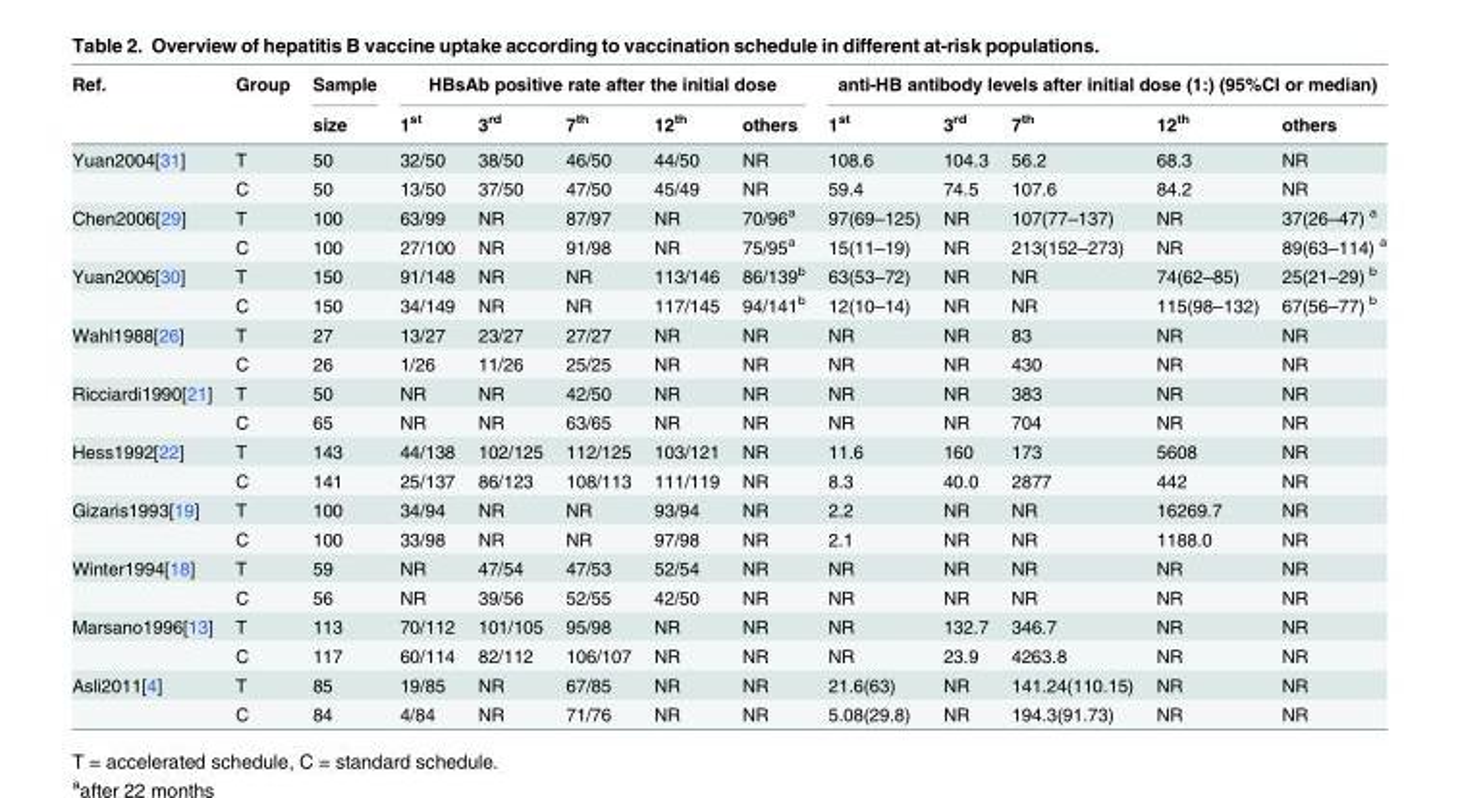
<table><thead><tr><td rowspan="2">Ref.</td><td rowspan="2">Group</td><td rowspan="2">Sample size</td><td colspan="5">HBsAb positive rate after the initial dose</td><td colspan="5">anti-HB antibody levels after initial dose (1:) (95%CI or median)</td></tr><tr><td>1<sup>st</sup></td><td>3<sup>rd</sup></td><td>7<sup>th</sup></td><td>12<sup>th</sup></td><td>others</td><td>1<sup>st</sup></td><td>3<sup>rd</sup></td><td>7<sup>th</sup></td><td>12<sup>th</sup></td><td>others</td></tr></thead><tbody><tr><td rowspan="2">Yuan2004[31]</td><td>T</td><td>50</td><td>32/50</td><td>38/50</td><td>46/50</td><td>44/50</td><td>NR</td><td>108.6</td><td>104.3</td><td>56.2</td><td>68.3</td><td>NR</td></tr><tr><td>C</td><td>50</td><td>13/50</td><td>37/50</td><td>47/50</td><td>45/49</td><td>NR</td><td>59.4</td><td>74.5</td><td>107.6</td><td>84.2</td><td>NR</td></tr><tr><td rowspan="2">Chen2006[29]</td><td>T</td><td>100</td><td>63/99</td><td>NR</td><td>87/97</td><td>NR</td><td>70/96<sup>a</sup></td><td>97(69–125)</td><td>NR</td><td>107(77–137)</td><td>NR</td><td>37(26–47) <sup>a</sup></td></tr><tr><td>C</td><td>100</td><td>27/100</td><td>NR</td><td>91/98</td><td>NR</td><td>75/95<sup>a</sup></td><td>15(11–19)</td><td>NR</td><td>213(152–273)</td><td>NR</td><td>89(63–114) <sup>a</sup></td></tr><tr><td rowspan="2">Yuan2006[30]</td><td>T</td><td>150</td><td>91/148</td><td>NR</td><td>NR</td><td>113/146</td><td>86/139<sup>b</sup></td><td>63(53–72)</td><td>NR</td><td>NR</td><td>74(62–85)</td><td>25(21–29) <sup>b</sup></td></tr><tr><td>C</td><td>150</td><td>34/149</td><td>NR</td><td>NR</td><td>117/145</td><td>94/141<sup>b</sup></td><td>12(10–14)</td><td>NR</td><td>NR</td><td>115(98–132)</td><td>67(56–77) <sup>b</sup></td></tr><tr><td rowspan="2">Wahl1988[26]</td><td>T</td><td>27</td><td>13/27</td><td>23/27</td><td>27/27</td><td>NR</td><td>NR</td><td>NR</td><td>NR</td><td>83</td><td>NR</td><td>NR</td></tr><tr><td>C</td><td>26</td><td>1/26</td><td>11/26</td><td>25/25</td><td>NR</td><td>NR</td><td>NR</td><td>NR</td><td>430</td><td>NR</td><td>NR</td></tr><tr><td rowspan="2">Ricciardi1990[21]</td><td>T</td><td>50</td><td>NR</td><td>NR</td><td>42/50</td><td>NR</td><td>NR</td><td>NR</td><td>NR</td><td>383</td><td>NR</td><td>NR</td></tr><tr><td>C</td><td>65</td><td>NR</td><td>NR</td><td>63/65</td><td>NR</td><td>NR</td><td>NR</td><td>NR</td><td>704</td><td>NR</td><td>NR</td></tr><tr><td rowspan="2">Hess1992[22]</td><td>T</td><td>143</td><td>44/138</td><td>102/125</td><td>112/125</td><td>103/121</td><td>NR</td><td>11.6</td><td>160</td><td>173</td><td>5608</td><td>NR</td></tr><tr><td>C</td><td>141</td><td>25/137</td><td>86/123</td><td>108/113</td><td>111/119</td><td>NR</td><td>8.3</td><td>40.0</td><td>2877</td><td>442</td><td>NR</td></tr><tr><td rowspan="2">Gizaris1993[19]</td><td>T</td><td>100</td><td>34/94</td><td>NR</td><td>NR</td><td>93/94</td><td>NR</td><td>2.2</td><td>NR</td><td>NR</td><td>16269.7</td><td>NR</td></tr><tr><td>C</td><td>100</td><td>33/98</td><td>NR</td><td>NR</td><td>97/98</td><td>NR</td><td>2.1</td><td>NR</td><td>NR</td><td>1188.0</td><td>NR</td></tr><tr><td rowspan="2">Winter1994[18]</td><td>T</td><td>59</td><td>NR</td><td>47/54</td><td>47/53</td><td>52/54</td><td>NR</td><td>NR</td><td>NR</td><td>NR</td><td>NR</td><td>NR</td></tr><tr><td>C</td><td>56</td><td>NR</td><td>39/56</td><td>52/55</td><td>42/50</td><td>NR</td><td>NR</td><td>NR</td><td>NR</td><td>NR</td><td>NR</td></tr><tr><td rowspan="2">Marsano1996[13]</td><td>T</td><td>113</td><td>70/112</td><td>101/105</td><td>95/98</td><td>NR</td><td>NR</td><td>NR</td><td>132.7</td><td>346.7</td><td>NR</td><td>NR</td></tr><tr><td>C</td><td>117</td><td>60/114</td><td>82/112</td><td>106/107</td><td>NR</td><td>NR</td><td>NR</td><td>23.9</td><td>4263.8</td><td>NR</td><td>NR</td></tr><tr><td rowspan="2">Asli2011[4]</td><td>T</td><td>85</td><td>19/85</td><td>NR</td><td>67/85</td><td>NR</td><td>NR</td><td>21.6(63)</td><td>NR</td><td>141.24(110.15)</td><td>NR</td><td>NR</td></tr><tr><td>C</td><td>84</td><td>4/84</td><td>NR</td><td>71/76</td><td>NR</td><td>NR</td><td>5.08(29.8)</td><td>NR</td><td>194.3(91.73)</td><td>NR</td><td>NR</td></tr></tbody></table>